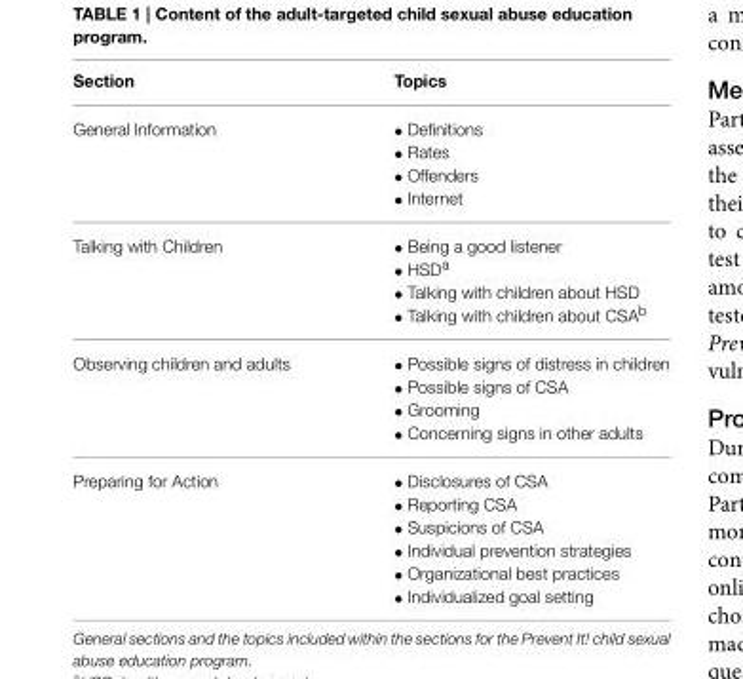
<table><thead><tr><td>Section</td><td>Topics</td></tr></thead><tbody><tr><td>General Information</td><td>• Definitions • Rates • Offenders • Internet</td></tr><tr><td>Talking with Children</td><td>• Being a good listener • HSD<sup>a</sup> • Talking with children about HSD • Talking with children about CSA<sup>b</sup></td></tr><tr><td>Observing children and adults</td><td>• Possible signs of distress in children • Possible signs of CSA • Grooming • Concerning signs in other adults</td></tr><tr><td>Preparing for Action</td><td>• Disclosures of CSA • Reporting CSA • Suspicions of CSA • Individual prevention strategies • Organizational best practices • Individualized goal setting</td></tr></tbody></table>